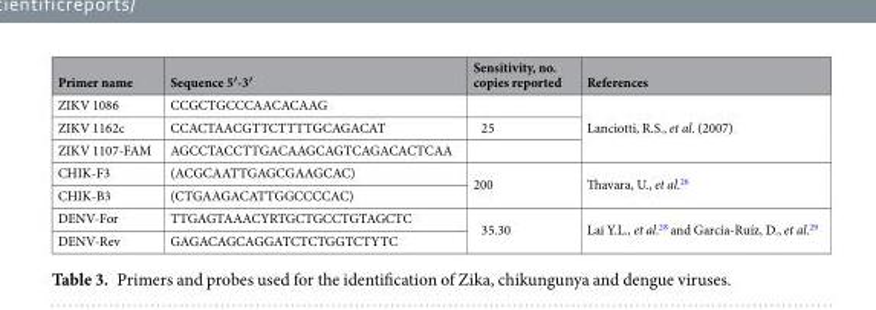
<table><thead><tr><td>Primer name</td><td>Sequence 5′-3′</td><td>Sensitivity, no. copies reported</td><td>References</td></tr></thead><tbody><tr><td>ZIKV 1086</td><td>CCGCTGCCCAACACAAG</td><td></td><td rowspan="3">Lanciotti, R.S., et al. (2007)</td></tr><tr><td>ZIKV 1162c</td><td>CCACTAACGTTCTTTTGCAGACAT</td><td>25</td></tr><tr><td>ZIKV 1107-FAM</td><td>AGCCTACCTTGACAAGCAGTCAGACACTCAA</td><td></td></tr><tr><td>CHIK-F3</td><td>(ACGCAATTGAGCGAAGCAC)</td><td rowspan="2">200</td><td rowspan="2">Thavara, U., et al.<sup>26</sup></td></tr><tr><td>CHIK-B3</td><td>(CTGAAGACATTGGCCCCAC)</td></tr><tr><td>DENV-For</td><td>TTGAGTAAACYRTGCTGCCTGTAGCTC</td><td rowspan="2">35.30</td><td rowspan="2">Lai Y.L., et al.<sup>28</sup> and García-Ruíz, D., et al.<sup>29</sup></td></tr><tr><td>DENV-Rev</td><td>GAGACAGCAGGATCTCTGGTCTYTC</td></tr></tbody></table>